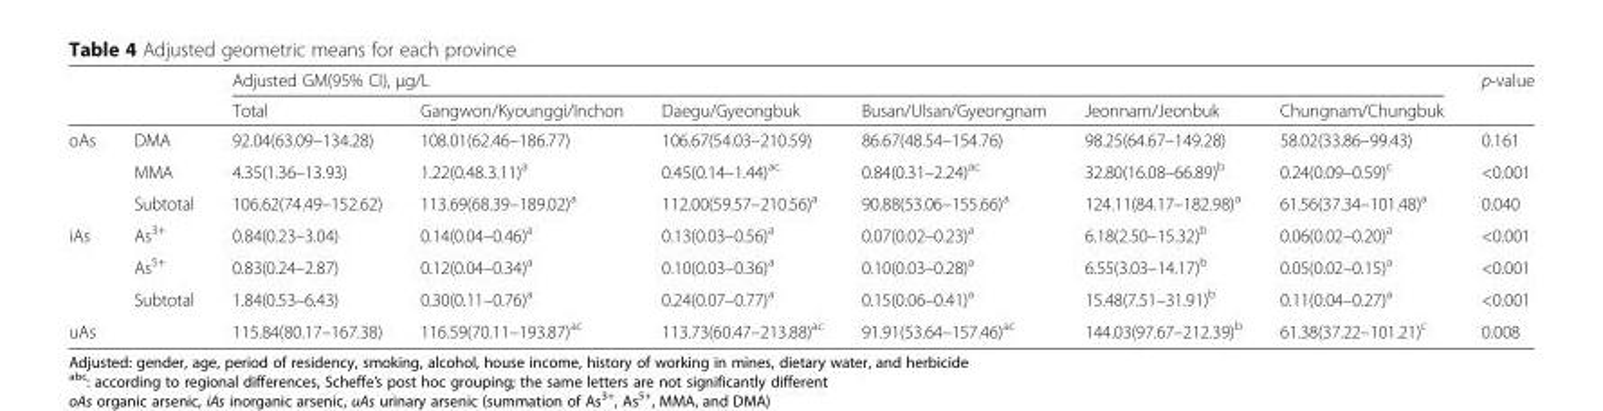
<table><thead><tr><td rowspan="2"></td><td rowspan="2"></td><td colspan="6">Adjusted GM(95% CI), μg/L</td><td rowspan="2">p-value</td></tr><tr><td>Total</td><td>Gangwon/Kyounggi/Inchon</td><td>Daegu/Gyeongbuk</td><td>Busan/Ulsan/Gyeongnam</td><td>Jeonnam/Jeonbuk</td><td>Chungnam/Chungbuk</td></tr></thead><tbody><tr><td rowspan="3">oAs</td><td>DMA</td><td>92.04(63.09–134.28)</td><td>108.01(62.46–186.77)</td><td>106.67(54.03–210.59)</td><td>86.67(48.54–154.76)</td><td>98.25(64.67–149.28)</td><td>58.02(33.86–99.43)</td><td>0.161</td></tr><tr><td>MMA</td><td>4.35(1.36–13.93)</td><td>1.22(0.48<sub>-</sub>3.11)<sup>a</sup></td><td>0.45(0.14–1.44)<sup>ac</sup></td><td>0.84(0.31–2.24)<sup>ac</sup></td><td>32.80(16.08–66.89)<sup>b</sup></td><td>0.24(0.09–0.59)<sup>c</sup></td><td>&lt;0.001</td></tr><tr><td>Subtotal</td><td>106.62(74.49–152.62)</td><td>113.69(68.39–189.02)<sup>a</sup></td><td>112.00(59.57–210.56)<sup>a</sup></td><td>90.88(53.06–155.66)<sup>a</sup></td><td>124.11(84.17–182.98)<sup>a</sup></td><td>61.56(37.34–101.48)<sup>a</sup></td><td>0.040</td></tr><tr><td rowspan="3">iAs</td><td>As<sup>3+</sup></td><td>0.84(0.23–3.04)</td><td>0.14(0.04–0.46)<sup>a</sup></td><td>0.13(0.03–0.56)<sup>a</sup></td><td>0.07(0.02–0.23)<sup>a</sup></td><td>6.18(2.50–15.32)<sup>b</sup></td><td>0.06(0.02–0.20)<sup>a</sup></td><td>&lt;0.001</td></tr><tr><td>As<sup>5+</sup></td><td>0.83(0.24–2.87)</td><td>0.12(0.04–0.34)<sup>a</sup></td><td>0.10(0.03–0.36)<sup>a</sup></td><td>0.10(0.03–0.28)<sup>a</sup></td><td>6.55(3.03–14.17)<sup>b</sup></td><td>0.05(0.02–0.15)<sup>a</sup></td><td>&lt;0.001</td></tr><tr><td>Subtotal</td><td>1.84(0.53–6.43)</td><td>0.30(0.11–0.76)<sup>a</sup></td><td>0.24(0.07–0.77)<sup>a</sup></td><td>0.15(0.06–0.41)<sup>a</sup></td><td>15.48(7.51–31.91)<sup>b</sup></td><td>0.11(0.04–0.27)<sup>a</sup></td><td>&lt;0.001</td></tr><tr><td colspan="2">uAs</td><td>115.84(80.17–167.38)</td><td>116.59(70.11–193.87)<sup>ac</sup></td><td>113.73(60.47–213.88)<sup>ac</sup></td><td>91.91(53.64–157.46)<sup>ac</sup></td><td>144.03(97.67–212.39)<sup>b</sup></td><td>61.38(37.22–101.21)<sup>c</sup></td><td>0.008</td></tr></tbody></table>